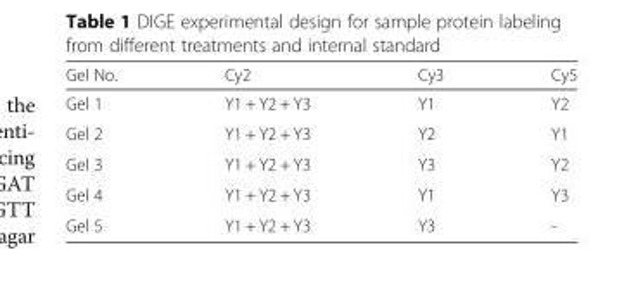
<table><thead><tr><td>Gel No.</td><td>Cy2</td><td>Cy3</td><td>Cy5</td></tr></thead><tbody><tr><td>Gel 1</td><td>Y1 + Y2 + Y3</td><td>Y1</td><td>Y2</td></tr><tr><td>Gel 2</td><td>Y1 + Y2 + Y3</td><td>Y2</td><td>Y1</td></tr><tr><td>Gel 3</td><td>Y1 + Y2 + Y3</td><td>Y3</td><td>Y2</td></tr><tr><td>Gel 4</td><td>Y1 + Y2 + Y3</td><td>Y1</td><td>Y3</td></tr><tr><td>Gel 5</td><td>Y1 + Y2 + Y3</td><td>Y3</td><td>-</td></tr></tbody></table>